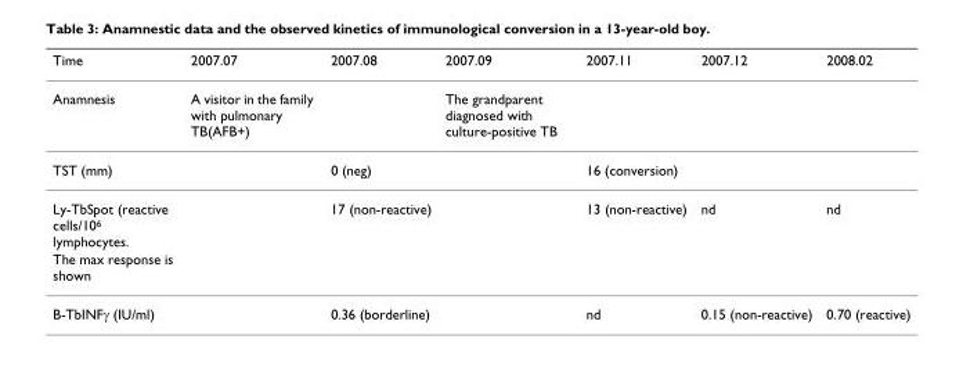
<table><thead><tr><td>Time</td><td>2007.07</td><td>2007.08</td><td>2007.09</td><td>2007.11</td><td>2007.12</td><td>2008.02</td></tr></thead><tbody><tr><td>Anamnesis</td><td>A visitor in the family with pulmonary TB(AFB+)</td><td></td><td>The grandparent diagnosed with culture-positive TB</td><td></td><td></td><td></td></tr><tr><td>TST (mm)</td><td></td><td>0 (neg)</td><td></td><td>16 (conversion)</td><td></td><td></td></tr><tr><td>Ly-TbSpot (reactive cells/10<sup>6</sup> lymphocytes.</td><td></td><td>17 (non-reactive)</td><td></td><td>13 (non-reactive)</td><td>nd</td><td>nd</td></tr><tr><td colspan="7">The max response is shown</td></tr><tr><td>B-TbINFγ (IU/ml)</td><td></td><td>0.36 (borderline)</td><td></td><td>nd</td><td>0.15 (non-reactive)</td><td>0.70 (reactive)</td></tr></tbody></table>